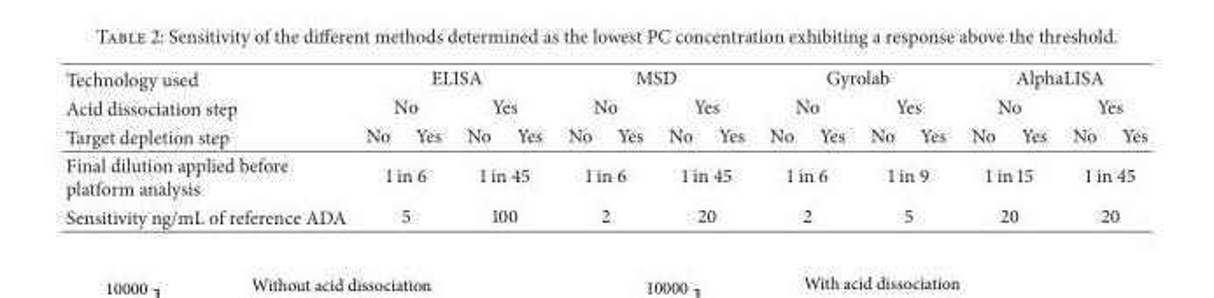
<table><thead><tr><td rowspan="3">Technology used Acid dissociation step Target depletion step</td><td colspan="4">ELISA</td><td colspan="4">MSD</td><td colspan="4">Gyrolab</td><td colspan="4">AlphaLISA</td></tr><tr><td colspan="2">No</td><td colspan="2">Yes</td><td colspan="2">No</td><td colspan="2">Yes</td><td colspan="2">No</td><td colspan="2">Yes</td><td colspan="2">No</td><td colspan="2">Yes</td></tr><tr><td>No</td><td>Yes</td><td>No</td><td>Yes</td><td>No</td><td>Yes</td><td>No</td><td>Yes</td><td>No</td><td>Yes</td><td>No</td><td>Yes</td><td>No</td><td>Yes</td><td>No</td><td>Yes</td></tr></thead><tbody><tr><td>Final dilution applied before platform analysis</td><td colspan="2">1 in 6</td><td colspan="2">1 in 45</td><td colspan="2">1 in 6</td><td colspan="2">1 in 45</td><td colspan="2">1 in 6</td><td colspan="2">1 in 9</td><td colspan="2">1 in 15</td><td colspan="2">1 in 45</td></tr><tr><td>Sensitivity ng/mL of reference ADA</td><td colspan="2">5</td><td colspan="2">100</td><td colspan="2">2</td><td colspan="2">20</td><td colspan="2">2</td><td colspan="2">5</td><td colspan="2">20</td><td colspan="2">20</td></tr></tbody></table>